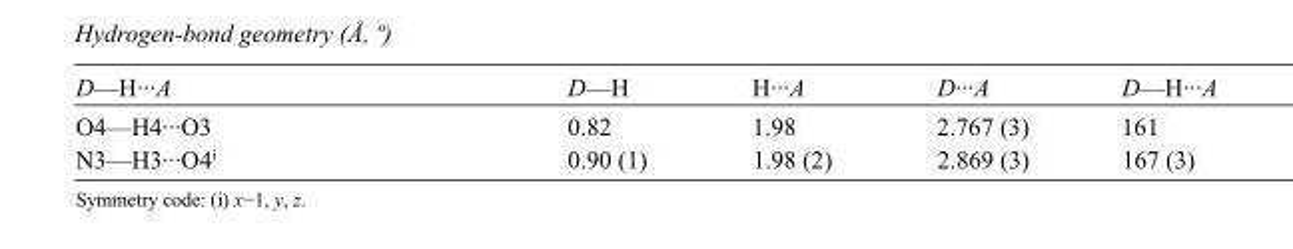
<table><tbody><tr><td>D—H···A</td><td>D—H</td><td>H···A</td><td>D···A</td><td>D—H···A</td></tr><tr><td>O4—H4···O3</td><td>0.82</td><td>1.98</td><td>2.767 (3)</td><td>161</td></tr><tr><td>N3—H3···O4<sup>i</sup></td><td>0.90 (1)</td><td>1.98 (2)</td><td>2.869 (3)</td><td>167 (3)</td></tr></tbody></table>